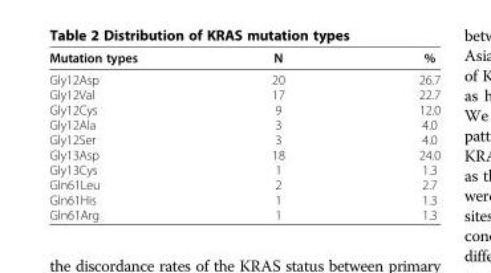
<table><thead><tr><td>Mutation types</td><td>N</td><td>%</td></tr></thead><tbody><tr><td>Gly12Asp</td><td>20</td><td>26.7</td></tr><tr><td>Gly12Val</td><td>17</td><td>22.7</td></tr><tr><td>Gly12Cys</td><td>9</td><td>12.0</td></tr><tr><td>Gly12Ala</td><td>3</td><td>4.0</td></tr><tr><td>Gly12Ser</td><td>3</td><td>4.0</td></tr><tr><td>Gly13Asp</td><td>18</td><td>24.0</td></tr><tr><td>Gly13Cys</td><td>1</td><td>1.3</td></tr><tr><td>Gln61Leu</td><td>2</td><td>2.7</td></tr><tr><td>Gln61His</td><td>1</td><td>1.3</td></tr><tr><td>Gln61Arg</td><td>1</td><td>1.3</td></tr></tbody></table>